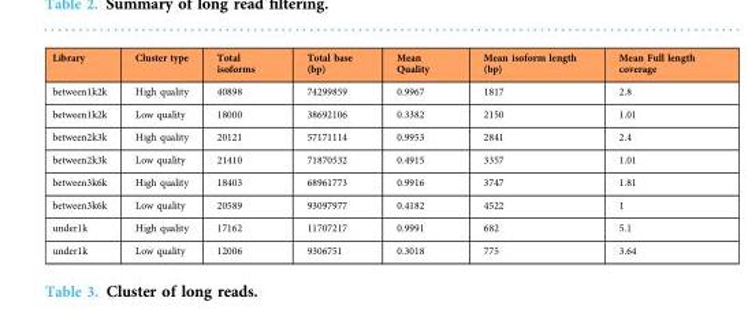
<table><thead><tr><td>Library</td><td>Cluster type</td><td>Total isoforms</td><td>Total base (bp)</td><td>Mean Quality</td><td>Mean isoform length (bp)</td><td>Mean Full length coverage</td></tr></thead><tbody><tr><td>between1k2k</td><td>High quality</td><td>40898</td><td>74299859</td><td>0.9967</td><td>1817</td><td>2.8</td></tr><tr><td>between1k2k</td><td>Low quality</td><td>18000</td><td>38692106</td><td>0.3382</td><td>2150</td><td>1.01</td></tr><tr><td>between2k3k</td><td>High quality</td><td>20121</td><td>57171114</td><td>0.9953</td><td>2841</td><td>2.4</td></tr><tr><td>between2k3k</td><td>Low quality</td><td>21410</td><td>71870532</td><td>0.4915</td><td>3357</td><td>1.01</td></tr><tr><td>between3k6k</td><td>High quality</td><td>18403</td><td>68961773</td><td>0.9916</td><td>3747</td><td>1.81</td></tr><tr><td>between3k6k</td><td>Low quality</td><td>20589</td><td>93097977</td><td>0.4182</td><td>4522</td><td>1</td></tr><tr><td>under1k</td><td>High quality</td><td>17162</td><td>11707217</td><td>0.9991</td><td>682</td><td>5.1</td></tr><tr><td>under1k</td><td>Low quality</td><td>12006</td><td>9306751</td><td>0.3018</td><td>775</td><td>3.64</td></tr></tbody></table>